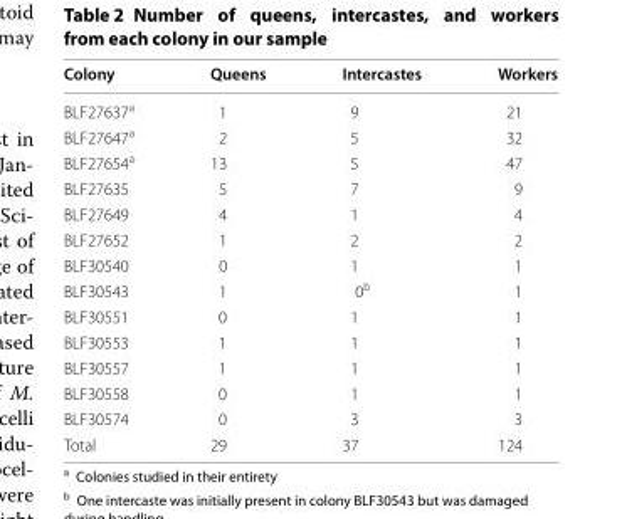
<table><thead><tr><td>Colony</td><td>Queens</td><td>Intercastes</td><td>Workers</td></tr></thead><tbody><tr><td>BLF27637<sup>a</sup></td><td>1</td><td>9</td><td>21</td></tr><tr><td>BLF27647<sup>a</sup></td><td>2</td><td>5</td><td>32</td></tr><tr><td>BLF27654<sup>a</sup></td><td>13</td><td>5</td><td>47</td></tr><tr><td>BLF27635</td><td>5</td><td>7</td><td>9</td></tr><tr><td>BLF27649</td><td>4</td><td>1</td><td>4</td></tr><tr><td>BLF27652</td><td>1</td><td>2</td><td>2</td></tr><tr><td>BLF30540</td><td>0</td><td>1</td><td>1</td></tr><tr><td>BLF30543</td><td>1</td><td>0<sup>b</sup></td><td>1</td></tr><tr><td>BLF30551</td><td>0</td><td>1</td><td>1</td></tr><tr><td>BLF30553</td><td>1</td><td>1</td><td>1</td></tr><tr><td>BLF30557</td><td>1</td><td>1</td><td>1</td></tr><tr><td>BLF30558</td><td>0</td><td>1</td><td>1</td></tr><tr><td>BLF30574</td><td>0</td><td>3</td><td>3</td></tr><tr><td>Total</td><td>29</td><td>37</td><td>124</td></tr></tbody></table>